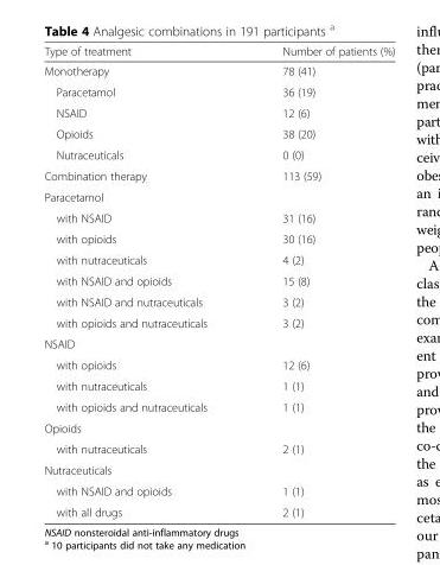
<table><thead><tr><td>Type of treatment</td><td>Number of patients (%)</td></tr></thead><tbody><tr><td>Monotherapy</td><td>78 (41)</td></tr><tr><td>Paracetamol</td><td>36 (19)</td></tr><tr><td>NSAID</td><td>12 (6)</td></tr><tr><td>Opioids</td><td>38 (20)</td></tr><tr><td>Nutraceuticals</td><td>0 (0)</td></tr><tr><td>Combination therapy</td><td>113 (59)</td></tr><tr><td colspan="2">Paracetamol</td></tr><tr><td>with NSAID</td><td>31 (16)</td></tr><tr><td>with opioids</td><td>30 (16)</td></tr><tr><td>with nutraceuticals</td><td>4 (2)</td></tr><tr><td>with NSAID and opioids</td><td>15 (8)</td></tr><tr><td>with NSAID and nutraceuticals</td><td>3 (2)</td></tr><tr><td>with opioids and nutraceuticals</td><td>3 (2)</td></tr><tr><td colspan="2">NSAID</td></tr><tr><td>with opioids</td><td>12 (6)</td></tr><tr><td>with nutraceuticals</td><td>1 (1)</td></tr><tr><td>with opioids and nutraceuticals</td><td>1 (1)</td></tr><tr><td colspan="2">Opioids</td></tr><tr><td>with nutraceuticals</td><td>2 (1)</td></tr><tr><td colspan="2">Nutraceuticals</td></tr><tr><td>with NSAID and opioids</td><td>1 (1)</td></tr><tr><td>with all drugs</td><td>2 (1)</td></tr></tbody></table>